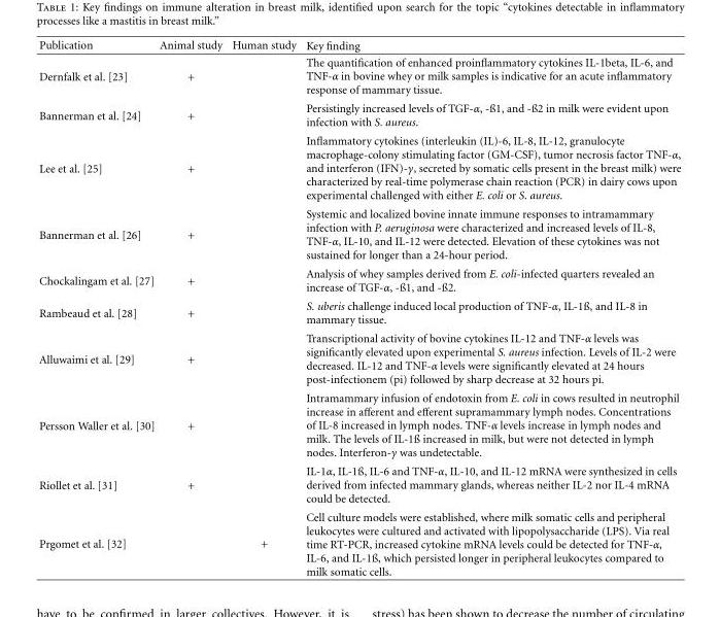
<table><thead><tr><td>Publication</td><td>Animal study</td><td>Human study</td><td>Key finding</td></tr></thead><tbody><tr><td>Dernfalk et al. [23]</td><td>+</td><td></td><td>The quantification of enhanced proinflammatory cytokines IL-1beta, IL-6, and TNF-α in bovine whey or milk samples is indicative for an acute inflammatory response of mammary tissue.</td></tr><tr><td>Bannerman et al. [24]</td><td>+</td><td></td><td>Persistingly increased levels of TGF-α, -ß1, and -ß2 in milk were evident upon infection with S. aureus.</td></tr><tr><td>Lee et al. [25]</td><td>+</td><td></td><td>Inflammatory cytokines (interleukin (IL)-6, IL-8, IL-12, granulocyte macrophage-colony stimulating factor (GM-CSF), tumor necrosis factor TNF-α, and interferon (IFN)-γ, secreted by somatic cells present in the breast milk) were characterized by real-time polymerase chain reaction (PCR) in dairy cows upon experimental challenged with either E. coli or S. aureus.</td></tr><tr><td>Bannerman et al. [26]</td><td>+</td><td></td><td>Systemic and localized bovine innate immune responses to intramammary infection with P. aeruginosa were characterized and increased levels of IL-8, TNF-α, IL-10, and IL-12 were detected. Elevation of these cytokines was not sustained for longer than a 24-hour period.</td></tr><tr><td>Chockalingam et al. [27]</td><td>+</td><td></td><td>Analysis of whey samples derived from E. coli-infected quarters revealed an increase of TGF-α, -ß1, and -ß2.</td></tr><tr><td>Rambeaud et al. [28]</td><td>+</td><td></td><td>S. uberis challenge induced local production of TNF-α, IL-1ß, and IL-8 in mammary tissue.</td></tr><tr><td>Alluwaimi et al. [29]</td><td>+</td><td></td><td>Transcriptional activity of bovine cytokines IL-12 and TNF-α levels was significantly elevated upon experimental S. aureus infection. Levels of IL-2 were decreased. IL-12 and TNF-α levels were significantly elevated at 24 hours post-infectionem (pi) followed by sharp decrease at 32 hours pi.</td></tr><tr><td>Persson Waller et al. [30]</td><td>+</td><td></td><td>Intramammary infusion of endotoxin from E. coli in cows resulted in neutrophil increase in afferent and efferent supramammary lymph nodes. Concentrations of IL-8 increased in lymph nodes. TNF-α levels increase in lymph nodes and milk. The levels of IL-1ß increased in milk, but were not detected in lymph nodes. Interferon-γ was undetectable.</td></tr><tr><td>Riollet et al. [31]</td><td>+</td><td></td><td>IL-1α, IL-1ß, IL-6 and TNF-α, IL-10, and IL-12 mRNA were synthesized in cells derived from infected mammary glands, whereas neither IL-2 nor IL-4 mRNA could be detected.</td></tr><tr><td>Prgomet et al. [32]</td><td></td><td>+</td><td>Cell culture models were established, where milk somatic cells and peripheral leukocytes were cultured and activated with lipopolysaccharide (LPS). Via real time RT-PCR, increased cytokine mRNA levels could be detected for TNF-α, IL-6, and IL-1ß, which persisted longer in peripheral leukocytes compared to milk somatic cells.</td></tr></tbody></table>